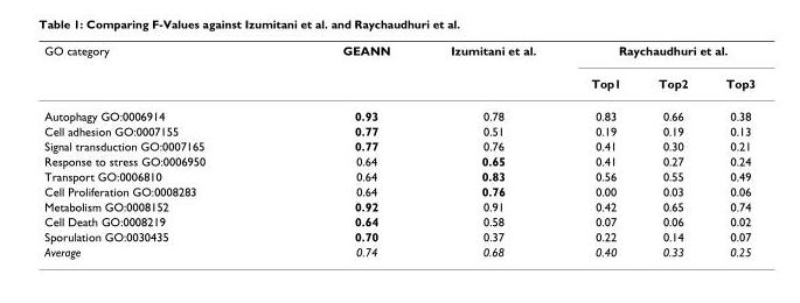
<table><thead><tr><td rowspan="2">GO category</td><td rowspan="2">GEANN</td><td rowspan="2">Izumitani et al.</td><td colspan="3">Raychaudhuri et al.</td></tr><tr><td>Top1</td><td>Top2</td><td>Top3</td></tr></thead><tbody><tr><td>Autophagy GO:0006914</td><td>0.93</td><td>0.78</td><td>0.83</td><td>0.66</td><td>0.38</td></tr><tr><td>Cell adhesion GO:0007155</td><td>0.77</td><td>0.51</td><td>0.19</td><td>0.19</td><td>0.13</td></tr><tr><td>Signal transduction GO:0007165</td><td>0.77</td><td>0.76</td><td>0.41</td><td>0.30</td><td>0.21</td></tr><tr><td>Response to stress GO:0006950</td><td>0.64</td><td>0.65</td><td>0.41</td><td>0.27</td><td>0.24</td></tr><tr><td>Transport GO:0006810</td><td>0.64</td><td>0.83</td><td>0.56</td><td>0.55</td><td>0.49</td></tr><tr><td>Cell Proliferation GO:0008283</td><td>0.64</td><td>0.76</td><td>0.00</td><td>0.03</td><td>0.06</td></tr><tr><td>Metabolism GO:0008152</td><td>0.92</td><td>0.91</td><td>0.42</td><td>0.65</td><td>0.74</td></tr><tr><td>Cell Death GO:0008219</td><td>0.64</td><td>0.58</td><td>0.07</td><td>0.06</td><td>0.02</td></tr><tr><td>Sporulation GO:0030435</td><td>0.70</td><td>0.37</td><td>0.22</td><td>0.14</td><td>0.07</td></tr><tr><td>Average</td><td>0.74</td><td>0.68</td><td>0.40</td><td>0.33</td><td>0.25</td></tr></tbody></table>